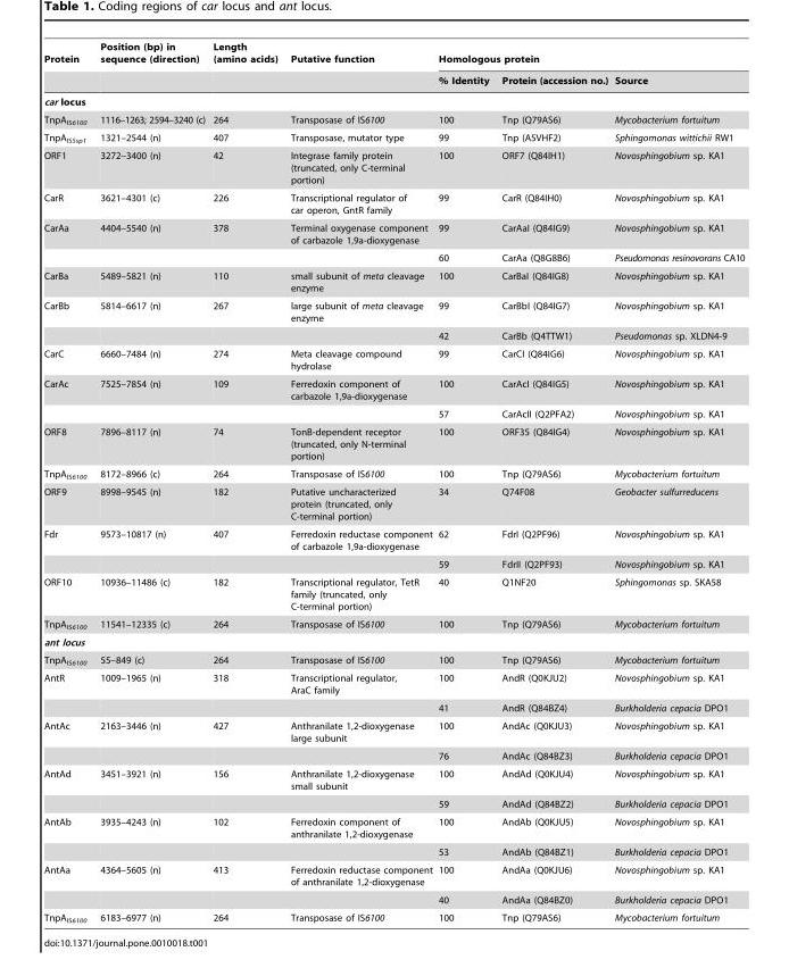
<table><thead><tr><td rowspan="2">Protein</td><td rowspan="2">Position (bp) in sequence (direction)</td><td rowspan="2">Length (amino acids)</td><td rowspan="2">Putative function</td><td colspan="3">Homologous protein</td></tr><tr><td>% Identity</td><td>Protein (accession no.)</td><td>Source</td></tr></thead><tbody><tr><td colspan="7">car locus</td></tr><tr><td>TnpA<sub>IS6100</sub></td><td>1116–1263; 2594–3240 (c)</td><td>264</td><td>Transposase of IS6100</td><td>100</td><td>Tnp (Q79AS6)</td><td>Mycobacterium fortuitum</td></tr><tr><td>TnpA<sub>ISSsp1</sub></td><td>1321–2544 (n)</td><td>407</td><td>Transposase, mutator type</td><td>99</td><td>Tnp (A5VHF2)</td><td>Sphingomonas wittichii RW1</td></tr><tr><td>ORF1</td><td>3272–3400 (n)</td><td>42</td><td>Integrase family protein (truncated, only C-terminal portion)</td><td>100</td><td>ORF7 (Q84IH1)</td><td>Novosphingobium sp. KA1</td></tr><tr><td>CarR</td><td>3621–4301 (c)</td><td>226</td><td>Transcriptional regulator of car operon, GntR family</td><td>99</td><td>CarR (Q84IH0)</td><td>Novosphingobium sp. KA1</td></tr><tr><td rowspan="2">CarAa</td><td>4404–5540 (n)</td><td>378</td><td>Terminal oxygenase component of carbazole 1,9a-dioxygenase</td><td>99</td><td>CarAaI (Q84IG9)</td><td>Novosphingobium sp. KA1</td></tr><tr><td></td><td></td><td></td><td>60</td><td>CarAa (Q8G8B6)</td><td>Pseudomonas resinovorans CA10</td></tr><tr><td>CarBa</td><td>5489–5821 (n)</td><td>110</td><td>small subunit of meta cleavage enzyme</td><td>100</td><td>CarBaI (Q84IG8)</td><td>Novosphingobium sp. KA1</td></tr><tr><td rowspan="2">CarBb</td><td>5814–6617 (n)</td><td>267</td><td>large subunit of meta cleavage enzyme</td><td>99</td><td>CarBbI (Q84IG7)</td><td>Novosphingobium sp. KA1</td></tr><tr><td></td><td></td><td></td><td>42</td><td>CarBb (Q4TTW1)</td><td>Pseudomonas sp. XLDN4-9</td></tr><tr><td>CarC</td><td>6660–7484 (n)</td><td>274</td><td>Meta cleavage compound hydrolase</td><td>99</td><td>CarCI (Q84IG6)</td><td>Novosphingobium sp. KA1</td></tr><tr><td rowspan="2">CarAc</td><td>7525–7854 (n)</td><td>109</td><td>Ferredoxin component of carbazole 1,9a-dioxygenase</td><td>100</td><td>CarAcI (Q84IG5)</td><td>Novosphingobium sp. KA1</td></tr><tr><td></td><td></td><td></td><td>57</td><td>CarAcII (Q2PFA2)</td><td>Novosphingobium sp. KA1</td></tr><tr><td>ORF8</td><td>7896–8117 (n)</td><td>74</td><td>TonB-dependent receptor (truncated, only N-terminal portion)</td><td>100</td><td>ORF35 (Q84IG4)</td><td>Novosphingobium sp. KA1</td></tr><tr><td>TnpA<sub>IS6100</sub></td><td>8172–8966 (c)</td><td>264</td><td>Transposase of IS6100</td><td>100</td><td>Tnp (Q79AS6)</td><td>Mycobacterium fortuitum</td></tr><tr><td>ORF9</td><td>8998–9545 (n)</td><td>182</td><td>Putative uncharacterized protein (truncated, only C-terminal portion)</td><td>34</td><td>Q74F08</td><td>Geobacter sulfurreducens</td></tr><tr><td rowspan="2">Fdr</td><td>9573–10817 (n)</td><td>407</td><td>Ferredoxin reductase component of carbazole 1,9a-dioxygenase</td><td>62</td><td>FdrI (Q2PF96)</td><td>Novosphingobium sp. KA1</td></tr><tr><td></td><td></td><td></td><td>59</td><td>FdrII (Q2PF93)</td><td>Novosphingobium sp. KA1</td></tr><tr><td>ORF10</td><td>10936–11486 (c)</td><td>182</td><td>Transcriptional regulator, TetR family (truncated, only C-terminal portion)</td><td>40</td><td>Q1NF20</td><td>Sphingomonas sp. SKA58</td></tr><tr><td>TnpA<sub>IS6100</sub></td><td>11541–12335 (c)</td><td>264</td><td>Transposase of IS6100</td><td>100</td><td>Tnp (Q79AS6)</td><td>Mycobacterium fortuitum</td></tr><tr><td colspan="7">ant locus</td></tr><tr><td>TnpA<sub>IS6100</sub></td><td>55–849 (c)</td><td>264</td><td>Transposase of IS6100</td><td>100</td><td>Tnp (Q79AS6)</td><td>Mycobacterium fortuitum</td></tr><tr><td rowspan="2">AntR</td><td>1009–1965 (n)</td><td>318</td><td>Transcriptional regulator, AraC family</td><td>100</td><td>AndR (Q0KJU2)</td><td>Novosphingobium sp. KA1</td></tr><tr><td></td><td></td><td></td><td>41</td><td>AndR (Q84BZ4)</td><td>Burkholderia cepacia DPO1</td></tr><tr><td rowspan="2">AntAc</td><td>2163–3446 (n)</td><td>427</td><td>Anthranilate 1,2-dioxygenase large subunit</td><td>100</td><td>AndAc (Q0KJU3)</td><td>Novosphingobium sp. KA1</td></tr><tr><td></td><td></td><td></td><td>76</td><td>AndAc (Q84BZ3)</td><td>Burkholderia cepacia DPO1</td></tr><tr><td rowspan="2">AntAd</td><td>3451–3921 (n)</td><td>156</td><td>Anthranilate 1,2-dioxygenase small subunit</td><td>100</td><td>AndAd (Q0KJU4)</td><td>Novosphingobium sp. KA1</td></tr><tr><td></td><td></td><td></td><td>59</td><td>AndAd (Q84BZ2)</td><td>Burkholderia cepacia DPO1</td></tr><tr><td rowspan="2">AntAb</td><td>3935–4243 (n)</td><td>102</td><td>Ferredoxin component of anthranilate 1,2-dioxygenase</td><td>100</td><td>AndAb (Q0KJU5)</td><td>Novosphingobium sp. KA1</td></tr><tr><td></td><td></td><td></td><td>53</td><td>AndAb (Q84BZ1)</td><td>Burkholderia cepacia DPO1</td></tr><tr><td rowspan="2">AntAa</td><td>4364–5605 (n)</td><td>413</td><td>Ferredoxin reductase component of anthranilate 1,2-dioxygenase</td><td>100</td><td>AndAa (Q0KJU6)</td><td>Novosphingobium sp. KA1</td></tr><tr><td></td><td></td><td></td><td>40</td><td>AndAa (Q84BZ0)</td><td>Burkholderia cepacia DPO1</td></tr><tr><td>TnpA<sub>IS6100</sub></td><td>6183–6977 (n)</td><td>264</td><td>Transposase of IS6100</td><td>100</td><td>Tnp (Q79AS6)</td><td>Mycobacterium fortuitum</td></tr></tbody></table>